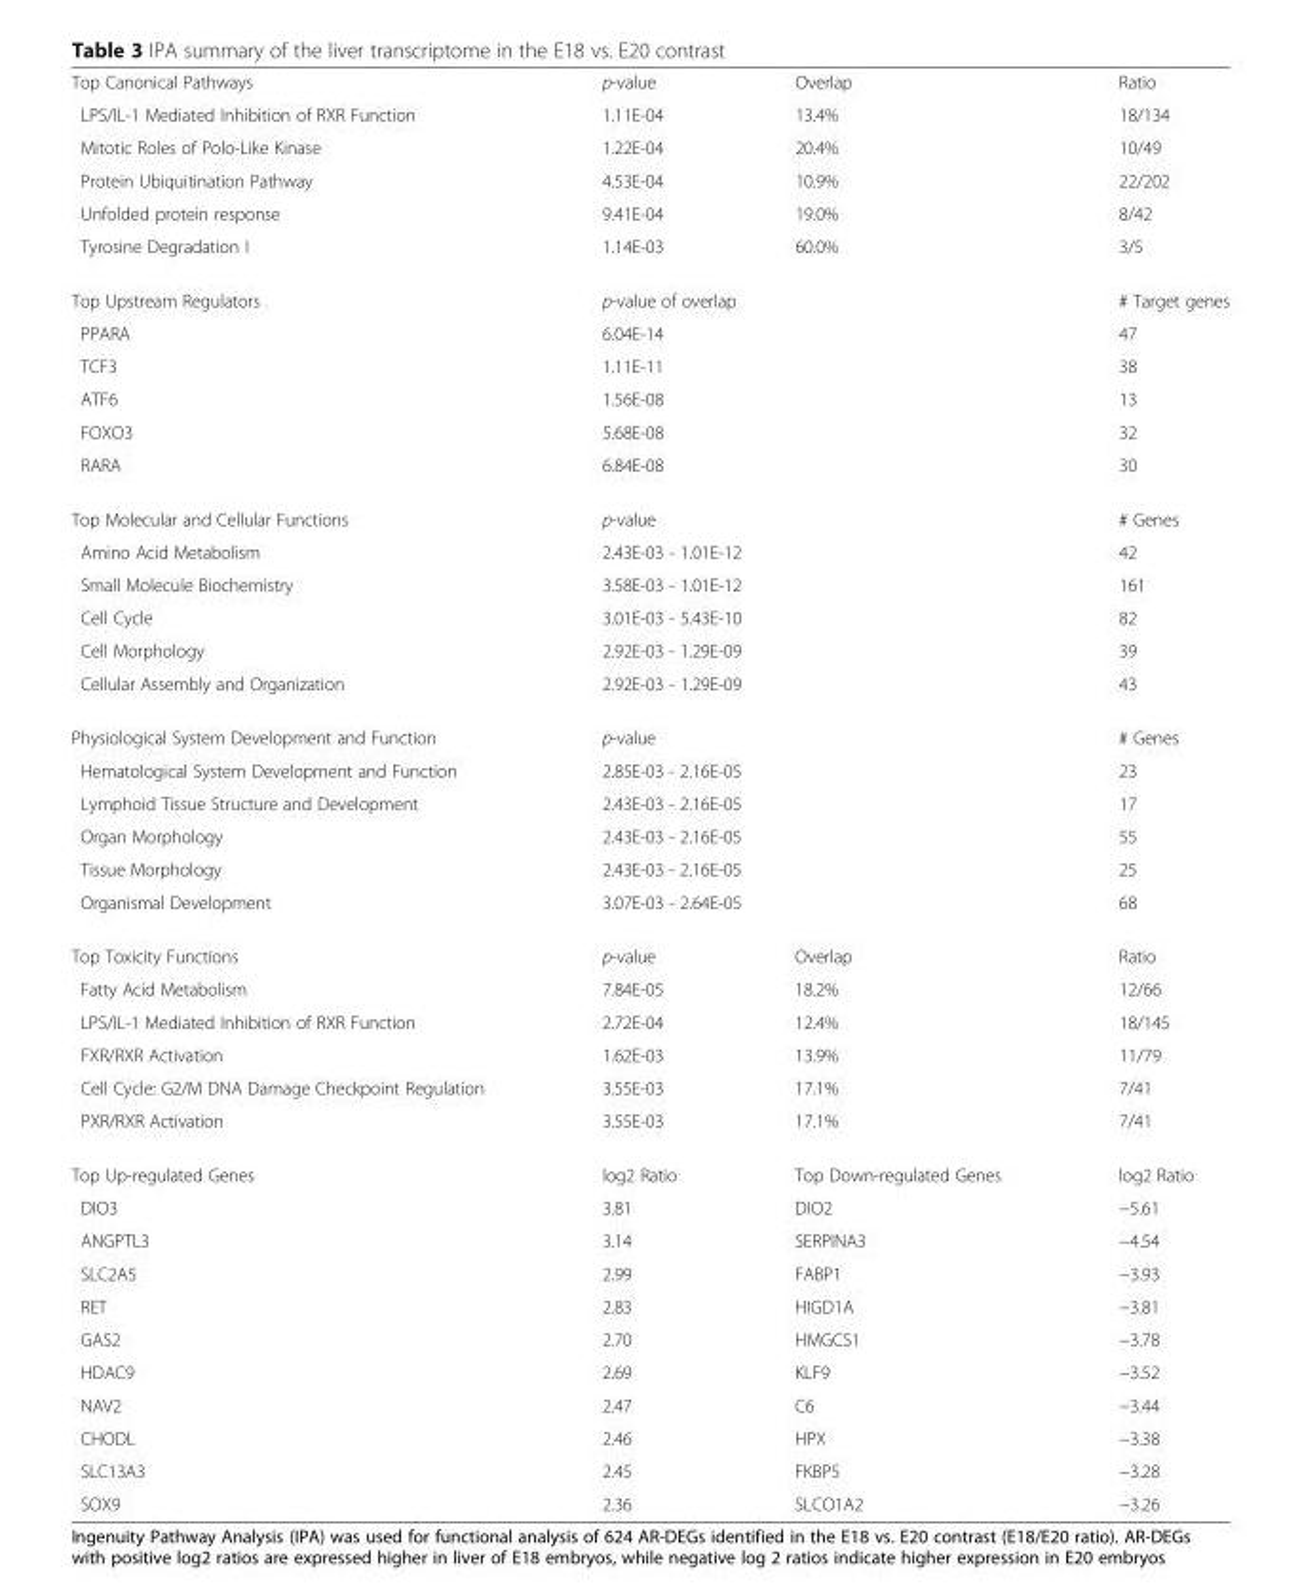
<table><tbody><tr><td>Top Canonical Pathways</td><td>p-value</td><td>Overlap</td><td>Ratio</td></tr><tr><td>LPS/IL-1 Mediated Inhibition of RXR Function</td><td>1.11E-04</td><td>13.4%</td><td>18/134</td></tr><tr><td>Mitotic Roles of Polo-Like Kinase</td><td>1.22E-04</td><td>20.4%</td><td>10/49</td></tr><tr><td>Protein Ubiquitination Pathway</td><td>4.53E-04</td><td>10.9%</td><td>22/202</td></tr><tr><td>Unfolded protein response</td><td>9.41E-04</td><td>19.0%</td><td>8/42</td></tr><tr><td>Tyrosine Degradation I</td><td>1.14E-03</td><td>60.0%</td><td>3/5</td></tr><tr><td>Top Upstream Regulators</td><td colspan="2">p-value of overlap</td><td># Target genes</td></tr><tr><td>PPARA</td><td colspan="2">6.04E-14</td><td>47</td></tr><tr><td>TCF3</td><td colspan="2">1.11E-11</td><td>38</td></tr><tr><td>ATF6</td><td colspan="2">1.56E-08</td><td>13</td></tr><tr><td>FOXO3</td><td colspan="2">5.68E-08</td><td>32</td></tr><tr><td>RARA</td><td colspan="2">6.84E-08</td><td>30</td></tr><tr><td>Top Molecular and Cellular Functions</td><td colspan="2">p-value</td><td># Genes</td></tr><tr><td>Amino Acid Metabolism</td><td colspan="2">2.43E-03 - 1.01E-12</td><td>42</td></tr><tr><td>Small Molecule Biochemistry</td><td colspan="2">3.58E-03 - 1.01E-12</td><td>161</td></tr><tr><td>Cell Cycle</td><td colspan="2">3.01E-03 - 5.43E-10</td><td>82</td></tr><tr><td>Cell Morphology</td><td colspan="2">2.92E-03 - 1.29E-09</td><td>39</td></tr><tr><td>Cellular Assembly and Organization</td><td colspan="2">2.92E-03 - 1.29E-09</td><td>43</td></tr><tr><td>Physiological System Development and Function</td><td colspan="2">p-value</td><td># Genes</td></tr><tr><td>Hematological System Development and Function</td><td colspan="2">2.85E-03 - 2.16E-05</td><td>23</td></tr><tr><td>Lymphoid Tissue Structure and Development</td><td colspan="2">2.43E-03 - 2.16E-05</td><td>17</td></tr><tr><td>Organ Morphology</td><td colspan="2">2.43E-03 - 2.16E-05</td><td>55</td></tr><tr><td>Tissue Morphology</td><td colspan="2">2.43E-03 - 2.16E-05</td><td>25</td></tr><tr><td>Organismal Development</td><td colspan="2">3.07E-03 - 2.64E-05</td><td>68</td></tr><tr><td>Top Toxicity Functions</td><td>p-value</td><td>Overlap</td><td>Ratio</td></tr><tr><td>Fatty Acid Metabolism</td><td>7.84E-05</td><td>18.2%</td><td>12/66</td></tr><tr><td>LPS/IL-1 Mediated Inhibition of RXR Function</td><td>2.72E-04</td><td>12.4%</td><td>18/145</td></tr><tr><td>FXR/RXR Activation</td><td>1.62E-03</td><td>13.9%</td><td>11/79</td></tr><tr><td>Cell Cycle: G2/M DNA Damage Checkpoint Regulation</td><td>3.55E-03</td><td>17.1%</td><td>7/41</td></tr><tr><td>PXR/RXR Activation</td><td>3.55E-03</td><td>17.1%</td><td>7/41</td></tr><tr><td>Top Up-regulated Genes</td><td>log2 Ratio</td><td>Top Down-regulated Genes</td><td>log2 Ratio</td></tr><tr><td>DIO3</td><td>3.81</td><td>DIO2</td><td>−5.61</td></tr><tr><td>ANGPTL3</td><td>3.14</td><td>SERPINA3</td><td>−4.54</td></tr><tr><td>SLC2A5</td><td>2.99</td><td>FABP1</td><td>−3.93</td></tr><tr><td>RET</td><td>2.83</td><td>HIGD1A</td><td>−3.81</td></tr><tr><td>GAS2</td><td>2.70</td><td>HMGCS1</td><td>−3.78</td></tr><tr><td>HDAC9</td><td>2.69</td><td>KLF9</td><td>−3.52</td></tr><tr><td>NAV2</td><td>2.47</td><td>C6</td><td>−3.44</td></tr><tr><td>CHODL</td><td>2.46</td><td>HPX</td><td>−3.38</td></tr><tr><td>SLC13A3</td><td>2.45</td><td>FKBP5</td><td>−3.28</td></tr><tr><td>SOX9</td><td>2.36</td><td>SLCO1A2</td><td>−3.26</td></tr></tbody></table>